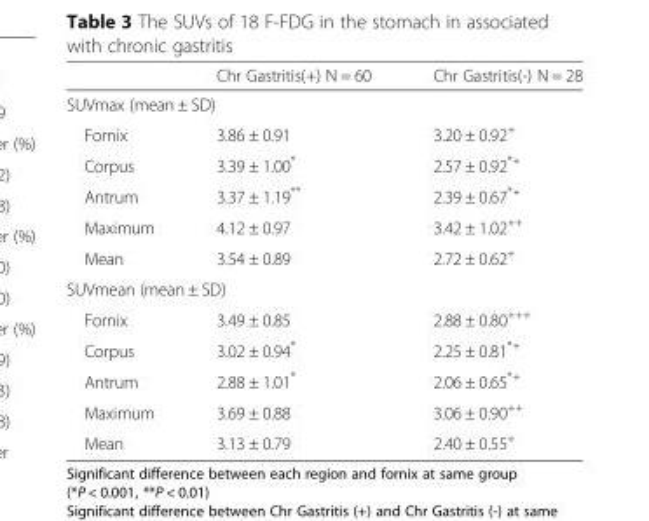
<table><thead><tr><td></td><td>Chr Gastritis(+) N = 60</td><td>Chr Gastritis(-) N = 28</td></tr></thead><tbody><tr><td colspan="3">SUVmax (mean ± SD)</td></tr><tr><td>Fornix</td><td>3.86 ± 0.91</td><td>3.20 ± 0.92<sup>+</sup></td></tr><tr><td>Corpus</td><td>3.39 ± 1.00*</td><td>2.57 ± 0.92<sup>*+</sup></td></tr><tr><td>Antrum</td><td>3.37 ± 1.19**</td><td>2.39 ± 0.67<sup>*+</sup></td></tr><tr><td>Maximum</td><td>4.12 ± 0.97</td><td>3.42 ± 1.02<sup>++</sup></td></tr><tr><td>Mean</td><td>3.54 ± 0.89</td><td>2.72 ± 0.62<sup>+</sup></td></tr><tr><td colspan="3">SUVmean (mean ± SD)</td></tr><tr><td>Fornix</td><td>3.49 ± 0.85</td><td>2.88 ± 0.80<sup>+++</sup></td></tr><tr><td>Corpus</td><td>3.02 ± 0.94*</td><td>2.25 ± 0.81<sup>*+</sup></td></tr><tr><td>Antrum</td><td>2.88 ± 1.01*</td><td>2.06 ± 0.65<sup>*+</sup></td></tr><tr><td>Maximum</td><td>3.69 ± 0.88</td><td>3.06 ± 0.90<sup>++</sup></td></tr><tr><td>Mean</td><td>3.13 ± 0.79</td><td>2.40 ± 0.55<sup>+</sup></td></tr></tbody></table>